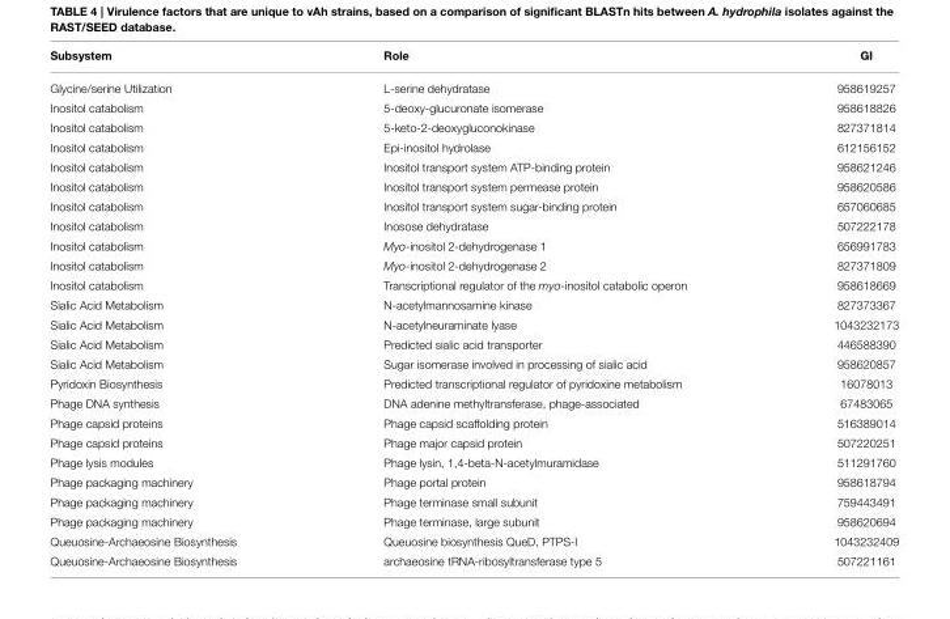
<table><thead><tr><td>Subsystem</td><td>Role</td><td>GI</td></tr></thead><tbody><tr><td>Glycine/serine Utilization</td><td>L-serine dehydratase</td><td>958619257</td></tr><tr><td>Inositol catabolism</td><td>5-deoxy-glucuronate isomerase</td><td>958618826</td></tr><tr><td>Inositol catabolism</td><td>5-keto-2-deoxygluconokinase</td><td>827371814</td></tr><tr><td>Inositol catabolism</td><td>Epi-inositol hydrolase</td><td>612156152</td></tr><tr><td>Inositol catabolism</td><td>Inositol transport system ATP-binding protein</td><td>958621246</td></tr><tr><td>Inositol catabolism</td><td>Inositol transport system permease protein</td><td>958620586</td></tr><tr><td>Inositol catabolism</td><td>Inositol transport system sugar-binding protein</td><td>657060685</td></tr><tr><td>Inositol catabolism</td><td>Inosose dehydratase</td><td>507222178</td></tr><tr><td>Inositol catabolism</td><td>Myo-inositol 2-dehydrogenase 1</td><td>656991783</td></tr><tr><td>Inositol catabolism</td><td>Myo-inositol 2-dehydrogenase 2</td><td>827371809</td></tr><tr><td>Inositol catabolism</td><td>Transcriptional regulator of the myo-inositol catabolic operon</td><td>958618669</td></tr><tr><td>Sialic Acid Metabolism</td><td>N-acetylmannosamine kinase</td><td>827373367</td></tr><tr><td>Sialic Acid Metabolism</td><td>N-acetylneuraminate lyase</td><td>1043232173</td></tr><tr><td>Sialic Acid Metabolism</td><td>Predicted sialic acid transporter</td><td>446588390</td></tr><tr><td>Sialic Acid Metabolism</td><td>Sugar isomerase involved in processing of sialic acid</td><td>958620857</td></tr><tr><td>Pyridoxin Biosynthesis</td><td>Predicted transcriptional regulator of pyridoxine metabolism</td><td>16078013</td></tr><tr><td>Phage DNA synthesis</td><td>DNA adenine methyltransferase, phage-associated</td><td>67483065</td></tr><tr><td>Phage capsid proteins</td><td>Phage capsid scaffolding protein</td><td>516389014</td></tr><tr><td>Phage capsid proteins</td><td>Phage major capsid protein</td><td>507220251</td></tr><tr><td>Phage lysis modules</td><td>Phage lysin, 1,4-beta-N-acetylmuramidase</td><td>511291760</td></tr><tr><td>Phage packaging machinery</td><td>Phage portal protein</td><td>958618794</td></tr><tr><td>Phage packaging machinery</td><td>Phage terminase small subunit</td><td>759443491</td></tr><tr><td>Phage packaging machinery</td><td>Phage terminase, large subunit</td><td>958620694</td></tr><tr><td>Queuosine-Archaeosine Biosynthesis</td><td>Queuosine biosynthesis QueD, PTPS-I</td><td>1043232409</td></tr><tr><td>Queuosine-Archaeosine Biosynthesis</td><td>archaeosine tRNA-ribosyltransferase type 5</td><td>507221161</td></tr></tbody></table>